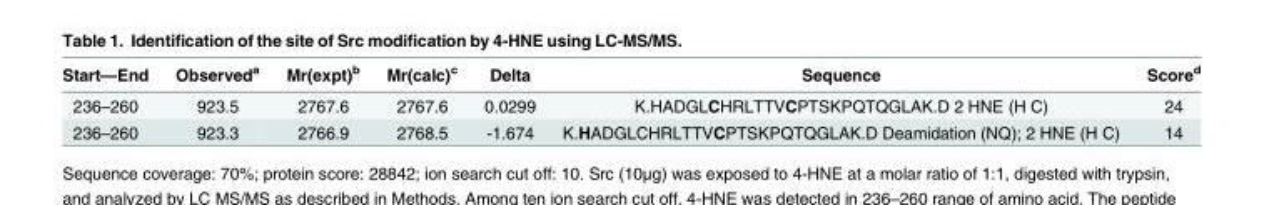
<table><thead><tr><td>Start—End</td><td>Observed<sup>a</sup></td><td>Mr(expt)<sup>b</sup></td><td>Mr(calc)<sup>c</sup></td><td>Delta</td><td>Sequence</td><td>Score<sup>d</sup></td></tr></thead><tbody><tr><td>236–260</td><td>923.5</td><td>2767.6</td><td>2767.6</td><td>0.0299</td><td>K.HADGLCHRLTTVCPTSKPQTQGLAK.D 2 HNE (H C)</td><td>24</td></tr><tr><td>236–260</td><td>923.3</td><td>2766.9</td><td>2768.5</td><td>-1.674</td><td>K.HADGLCHRLTTVCPTSKPQTQGLAK.D Deamidation (NQ); 2 HNE (H C)</td><td>14</td></tr></tbody></table>